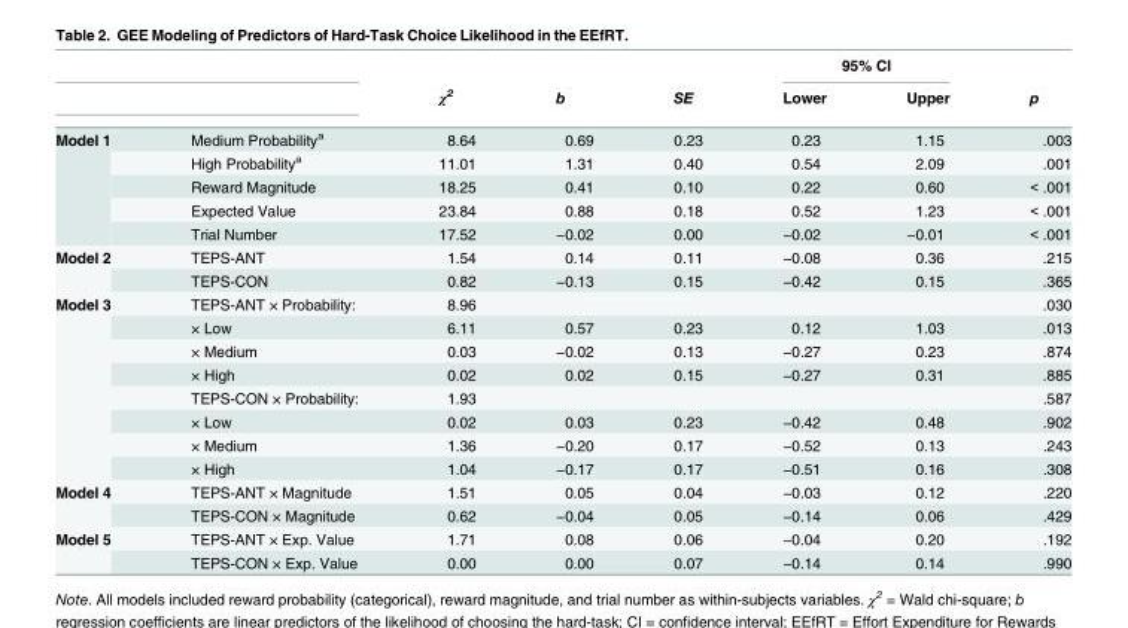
<table><thead><tr><td rowspan="2"></td><td rowspan="2"></td><td rowspan="2">χ<sup>2</sup></td><td rowspan="2">b</td><td rowspan="2">SE</td><td colspan="2">95% CI</td><td rowspan="2">p</td></tr><tr><td>Lower</td><td>Upper</td></tr></thead><tbody><tr><td rowspan="5">Model 1</td><td>Medium Probability<sup>a</sup></td><td>8.64</td><td>0.69</td><td>0.23</td><td>0.23</td><td>1.15</td><td>.003</td></tr><tr><td>High Probability<sup>a</sup></td><td>11.01</td><td>1.31</td><td>0.40</td><td>0.54</td><td>2.09</td><td>.001</td></tr><tr><td>Reward Magnitude</td><td>18.25</td><td>0.41</td><td>0.10</td><td>0.22</td><td>0.60</td><td>&lt; .001</td></tr><tr><td>Expected Value</td><td>23.84</td><td>0.88</td><td>0.18</td><td>0.52</td><td>1.23</td><td>&lt; .001</td></tr><tr><td>Trial Number</td><td>17.52</td><td>−0.02</td><td>0.00</td><td>−0.02</td><td>−0.01</td><td>&lt; .001</td></tr><tr><td rowspan="2">Model 2</td><td>TEPS-ANT</td><td>1.54</td><td>0.14</td><td>0.11</td><td>−0.08</td><td>0.36</td><td>.215</td></tr><tr><td>TEPS-CON</td><td>0.82</td><td>−0.13</td><td>0.15</td><td>−0.42</td><td>0.15</td><td>.365</td></tr><tr><td rowspan="8">Model 3</td><td>TEPS-ANT × Probability:</td><td>8.96</td><td></td><td></td><td></td><td></td><td>.030</td></tr><tr><td>× Low</td><td>6.11</td><td>0.57</td><td>0.23</td><td>0.12</td><td>1.03</td><td>.013</td></tr><tr><td>× Medium</td><td>0.03</td><td>−0.02</td><td>0.13</td><td>−0.27</td><td>0.23</td><td>.874</td></tr><tr><td>× High</td><td>0.02</td><td>0.02</td><td>0.15</td><td>−0.27</td><td>0.31</td><td>.885</td></tr><tr><td>TEPS-CON × Probability:</td><td>1.93</td><td></td><td></td><td></td><td></td><td>.587</td></tr><tr><td>× Low</td><td>0.02</td><td>0.03</td><td>0.23</td><td>−0.42</td><td>0.48</td><td>.902</td></tr><tr><td>× Medium</td><td>1.36</td><td>−0.20</td><td>0.17</td><td>−0.52</td><td>0.13</td><td>.243</td></tr><tr><td>× High</td><td>1.04</td><td>−0.17</td><td>0.17</td><td>−0.51</td><td>0.16</td><td>.308</td></tr><tr><td rowspan="2">Model 4</td><td>TEPS-ANT × Magnitude</td><td>1.51</td><td>0.05</td><td>0.04</td><td>−0.03</td><td>0.12</td><td>.220</td></tr><tr><td>TEPS-CON × Magnitude</td><td>0.62</td><td>−0.04</td><td>0.05</td><td>−0.14</td><td>0.06</td><td>.429</td></tr><tr><td rowspan="2">Model 5</td><td>TEPS-ANT × Exp. Value</td><td>1.71</td><td>0.08</td><td>0.06</td><td>−0.04</td><td>0.20</td><td>.192</td></tr><tr><td>TEPS-CON × Exp. Value</td><td>0.00</td><td>0.00</td><td>0.07</td><td>−0.14</td><td>0.14</td><td>.990</td></tr></tbody></table>